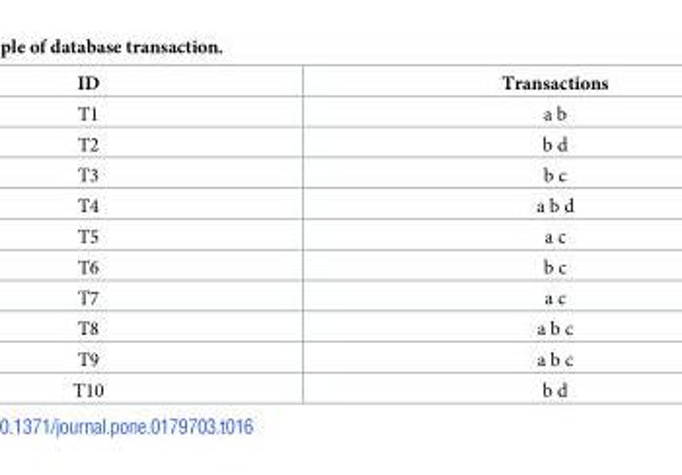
<table><thead><tr><td>ID</td><td>Transactions</td></tr></thead><tbody><tr><td>T1</td><td>a b</td></tr><tr><td>T2</td><td>b d</td></tr><tr><td>T3</td><td>b c</td></tr><tr><td>T4</td><td>a b d</td></tr><tr><td>T5</td><td>a c</td></tr><tr><td>T6</td><td>b c</td></tr><tr><td>T7</td><td>a c</td></tr><tr><td>T8</td><td>a b c</td></tr><tr><td>T9</td><td>a b c</td></tr><tr><td>T10</td><td>b d</td></tr></tbody></table>